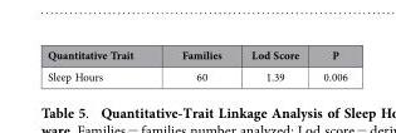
<table><thead><tr><td>Quantitative Trait</td><td>Families</td><td>Lod Score</td><td>P</td></tr></thead><tbody><tr><td>Sleep Hours</td><td>60</td><td>1.39</td><td>0.006</td></tr></tbody></table>